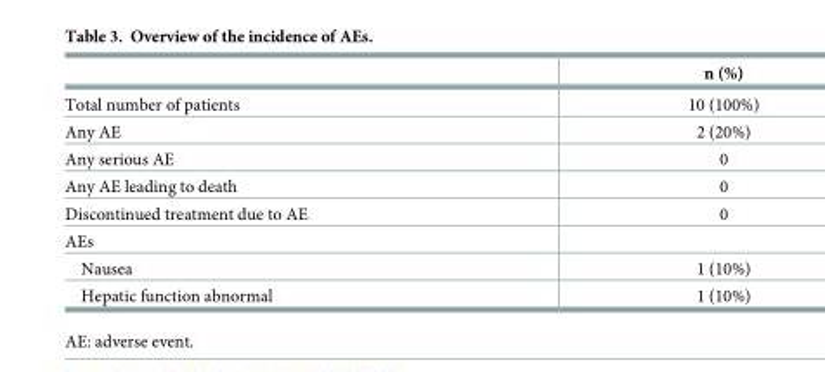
<table><thead><tr><td></td><td>n (%)</td></tr></thead><tbody><tr><td>Total number of patients</td><td>10 (100%)</td></tr><tr><td>Any AE</td><td>2 (20%)</td></tr><tr><td>Any serious AE</td><td>0</td></tr><tr><td>Any AE leading to death</td><td>0</td></tr><tr><td>Discontinued treatment due to AE</td><td>0</td></tr><tr><td colspan="2">AEs</td></tr><tr><td>Nausea</td><td>1 (10%)</td></tr><tr><td>Hepatic function abnormal</td><td>1 (10%)</td></tr></tbody></table>